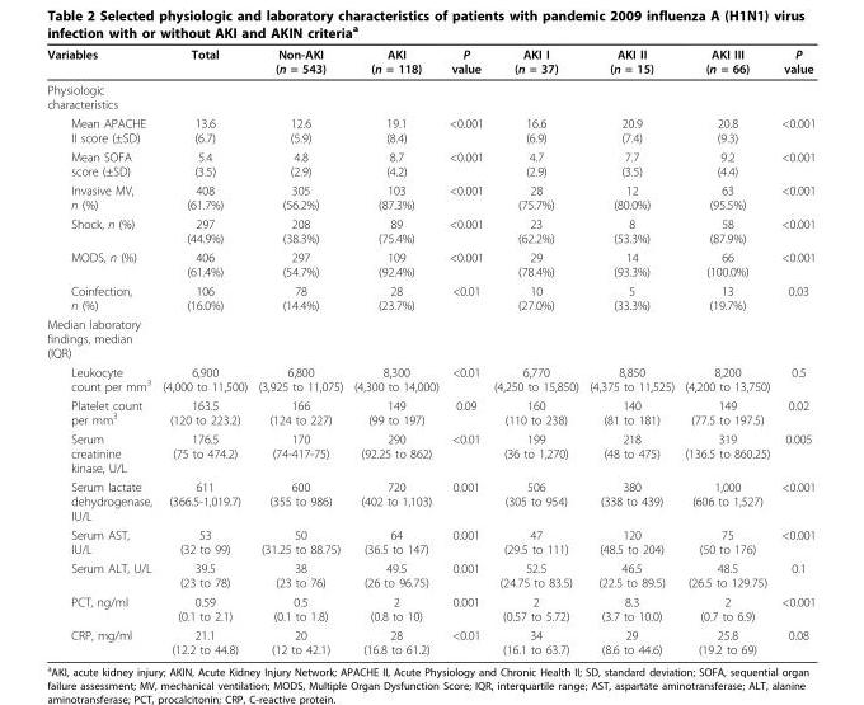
<table><thead><tr><td>Variables</td><td>Total</td><td>Non-AKI (n = 543)</td><td>AKI (n = 118)</td><td>P value</td><td>AKI I (n = 37)</td><td>AKI II (n = 15)</td><td>AKI III (n = 66)</td><td>P value</td></tr></thead><tbody><tr><td colspan="9">Physiologic characteristics</td></tr><tr><td>Mean APACHE II score (±SD)</td><td>13.6 (6.7)</td><td>12.6 (5.9)</td><td>19.1 (8.4)</td><td>&lt;0.001</td><td>16.6 (6.9)</td><td>20.9 (7.4)</td><td>20.8 (9.3)</td><td>&lt;0.001</td></tr><tr><td>Mean SOFA score (±SD)</td><td>5.4 (3.5)</td><td>4.8 (2.9)</td><td>8.7 (4.2)</td><td>&lt;0.001</td><td>4.7 (2.9)</td><td>7.7 (3.5)</td><td>9.2 (4.4)</td><td>&lt;0.001</td></tr><tr><td>Invasive MV, n (%)</td><td>408 (61.7%)</td><td>305 (56.2%)</td><td>103 (87.3%)</td><td>&lt;0.001</td><td>28 (75.7%)</td><td>12 (80.0%)</td><td>63 (95.5%)</td><td>&lt;0.001</td></tr><tr><td>Shock, n (%)</td><td>297 (44.9%)</td><td>208 (38.3%)</td><td>89 (75.4%)</td><td>&lt;0.001</td><td>23 (62.2%)</td><td>8 (53.3%)</td><td>58 (87.9%)</td><td>&lt;0.001</td></tr><tr><td>MODS, n (%)</td><td>406 (61.4%)</td><td>297 (54.7%)</td><td>109 (92.4%)</td><td>&lt;0.001</td><td>29 (78.4%)</td><td>14 (93.3%)</td><td>66 (100.0%)</td><td>&lt;0.001</td></tr><tr><td>Coinfection, n (%)</td><td>106 (16.0%)</td><td>78 (14.4%)</td><td>28 (23.7%)</td><td>&lt;0.01</td><td>10 (27.0%)</td><td>5 (33.3%)</td><td>13 (19.7%)</td><td>0.03</td></tr><tr><td colspan="9">Median laboratory findings, median (IQR)</td></tr><tr><td>Leukocyte count per mm<sup>3</sup></td><td>6,900 (4,000 to 11,500)</td><td>6,800 (3,925 to 11,075)</td><td>8,300 (4,300 to 14,000)</td><td>&lt;0.01</td><td>6,770 (4,250 to 15,850)</td><td>8,850 (4,375 to 11,525)</td><td>8,200 (4,200 to 13,750)</td><td>0.5</td></tr><tr><td>Platelet count per mm<sup>3</sup></td><td>163.5 (120 to 223.2)</td><td>166 (124 to 227)</td><td>149 (99 to 197)</td><td>0.09</td><td>160 (110 to 238)</td><td>140 (81 to 181)</td><td>149 (77.5 to 197.5)</td><td>0.02</td></tr><tr><td>Serum creatinine kinase, U/L</td><td>176.5 (75 to 474.2)</td><td>170 (74-417-75)</td><td>290 (92.25 to 862)</td><td>&lt;0.01</td><td>199 (36 to 1,270)</td><td>218 (48 to 475)</td><td>319 (136.5 to 860.25)</td><td>0.005</td></tr><tr><td>Serum lactate dehydrogenase, IU/L</td><td>611 (366.5-1,019.7)</td><td>600 (355 to 986)</td><td>720 (402 to 1,103)</td><td>0.001</td><td>506 (305 to 954)</td><td>380 (338 to 439)</td><td>1,000 (606 to 1,527)</td><td>&lt;0.001</td></tr><tr><td>Serum AST, IU/L</td><td>53 (32 to 99)</td><td>50 (31.25 to 88.75)</td><td>64 (36.5 to 147)</td><td>0.001</td><td>47 (29.5 to 111)</td><td>120 (48.5 to 204)</td><td>75 (50 to 176)</td><td>&lt;0.001</td></tr><tr><td>Serum ALT, U/L</td><td>39.5 (23 to 78)</td><td>38 (23 to 76)</td><td>49.5 (26 to 96.75)</td><td>0.001</td><td>52.5 (24.75 to 83.5)</td><td>46.5 (22.5 to 89.5)</td><td>48.5 (26.5 to 129.75)</td><td>0.1</td></tr><tr><td>PCT, ng/ml</td><td>0.59 (0.1 to 2.1)</td><td>0.5 (0.1 to 1.8)</td><td>2 (0.8 to 10)</td><td>0.001</td><td>2 (0.57 to 5.72)</td><td>8.3 (3.7 to 10.0)</td><td>2 (0.7 to 6.9)</td><td>&lt;0.001</td></tr><tr><td>CRP, mg/ml</td><td>21.1 (12.2 to 44.8)</td><td>20 (12 to 42.1)</td><td>28 (16.8 to 61.2)</td><td>&lt;0.01</td><td>34 (16.1 to 63.7)</td><td>29 (8.6 to 44.6)</td><td>25.8 (19.2 to 69)</td><td>0.08</td></tr></tbody></table>